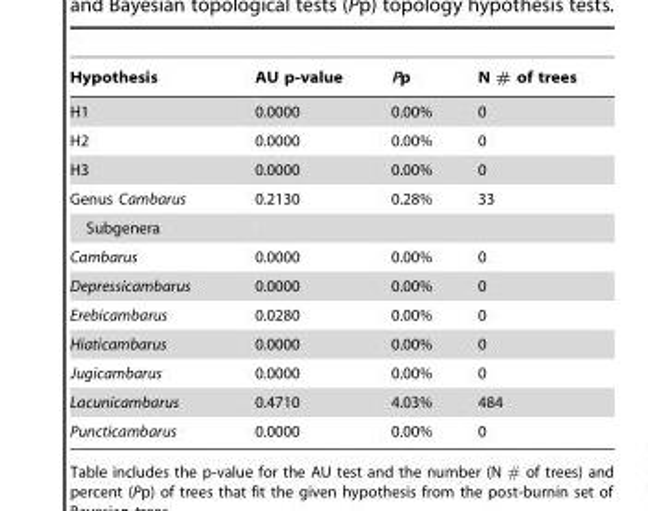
<table><thead><tr><td>Hypothesis</td><td>AU p-value</td><td>Pp</td><td>N # of trees</td></tr></thead><tbody><tr><td>H1</td><td>0.0000</td><td>0.00%</td><td>0</td></tr><tr><td>H2</td><td>0.0000</td><td>0.00%</td><td>0</td></tr><tr><td>H3</td><td>0.0000</td><td>0.00%</td><td>0</td></tr><tr><td>Genus Cambarus</td><td>0.2130</td><td>0.28%</td><td>33</td></tr><tr><td colspan="4">Subgenera</td></tr><tr><td>Cambarus</td><td>0.0000</td><td>0.00%</td><td>0</td></tr><tr><td>Depressicambarus</td><td>0.0000</td><td>0.00%</td><td>0</td></tr><tr><td>Erebicambarus</td><td>0.0280</td><td>0.00%</td><td>0</td></tr><tr><td>Hiaticambarus</td><td>0.0000</td><td>0.00%</td><td>0</td></tr><tr><td>Jugicambarus</td><td>0.0000</td><td>0.00%</td><td>0</td></tr><tr><td>Lacunicambarus</td><td>0.4710</td><td>4.03%</td><td>484</td></tr><tr><td>Puncticambarus</td><td>0.0000</td><td>0.00%</td><td>0</td></tr></tbody></table>